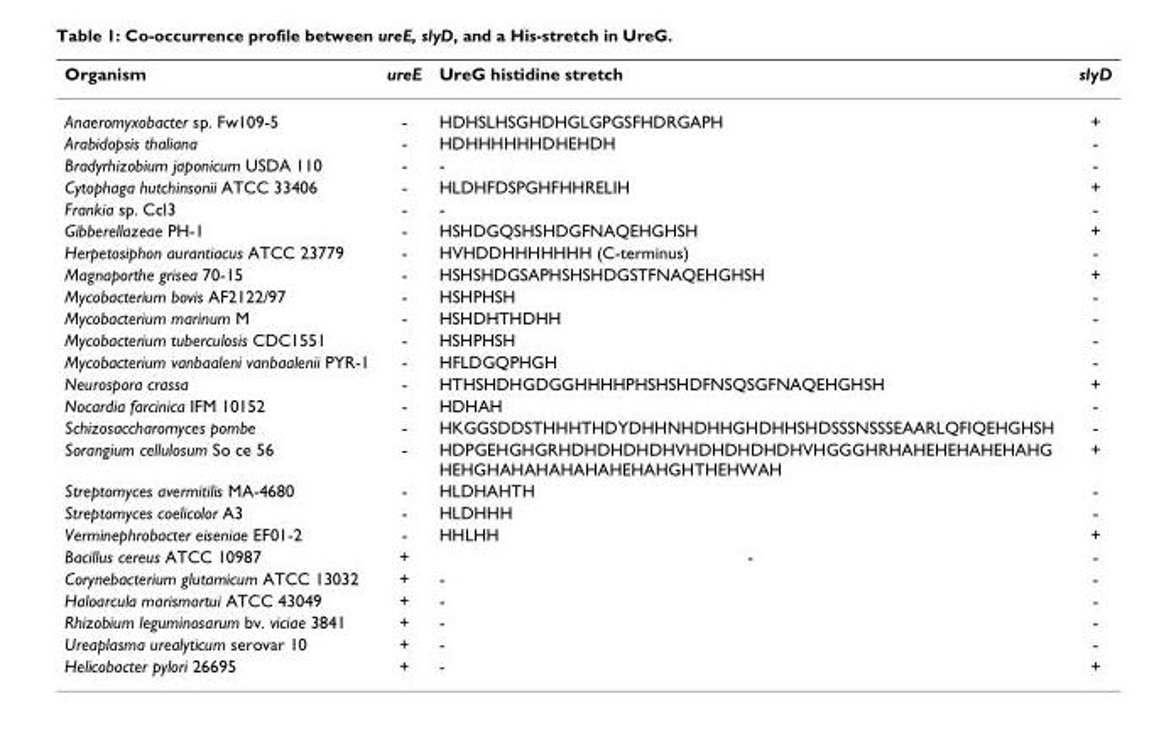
<table><thead><tr><td>Organism</td><td>ureE</td><td>UreG histidine stretch</td><td>slyD</td></tr></thead><tbody><tr><td>Anaeromyxobacter sp. Fw109-5</td><td>-</td><td>HDHSLHSGHDHGLGPGSFHDRGAPH</td><td>+</td></tr><tr><td>Arabidopsis thaliana</td><td>-</td><td>HDHHHHHHDHEHDH</td><td>-</td></tr><tr><td>Bradyrhizobium japonicum USDA 110</td><td>-</td><td>-</td><td>-</td></tr><tr><td>Cytophaga hutchinsonii ATCC 33406</td><td>-</td><td>HLDHFDSPGHFHHRELIH</td><td>+</td></tr><tr><td>Frankia sp. Ccl3</td><td>-</td><td>-</td><td>-</td></tr><tr><td>Gibberellazeae PH-1</td><td>-</td><td>HSHDGQSHSHDGFNAQEHGHSH</td><td>+</td></tr><tr><td>Herpetosiphon aurantiacus ATCC 23779</td><td>-</td><td>HVHDDHHHHHHH (C-terminus)</td><td>-</td></tr><tr><td>Magnaporthe grisea 70-15</td><td>-</td><td>HSHSHDGSAPHSHSHDGSTFNAQEHGHSH</td><td>+</td></tr><tr><td>Mycobacterium bovis AF2122/97</td><td>-</td><td>HSHPHSH</td><td>-</td></tr><tr><td>Mycobacterium marinum M</td><td>-</td><td>HSHDHTHDHH</td><td>-</td></tr><tr><td>Mycobacterium tuberculosis CDC1551</td><td>-</td><td>HSHPHSH</td><td>-</td></tr><tr><td>Mycobacterium vanbaaleni vanbaalenii PYR-1</td><td>-</td><td>HFLDGQPHGH</td><td>-</td></tr><tr><td>Neurospora crassa</td><td>-</td><td>HTHSHDHGDGGHHHHPHSHSHDFNSQSGFNAQEHGHSH</td><td>+</td></tr><tr><td>Nocardia farcinica IFM 10152</td><td>-</td><td>HDHAH</td><td>-</td></tr><tr><td>Schizosaccharomyces pombe</td><td>-</td><td>HKGGSDDSTHHHTHDYDHHNHDHHGHDHHSHDSSSNSSSEAARLQFIQEHGHSH</td><td>-</td></tr><tr><td>Sorangium cellulosum So ce 56</td><td>-</td><td>HDPGEHGHGRHDHDHDHDHVHDHDHDHDHVHGGGHRHAHEHEHAHEHAHG HEHGHAHAHAHAHAHEHAHGHTHEHWAH</td><td>+</td></tr><tr><td>Streptomyces avermitilis MA-4680</td><td>-</td><td>HLDHAHTH</td><td>-</td></tr><tr><td>Streptomyces coelicolor A3</td><td>-</td><td>HLDHHH</td><td>-</td></tr><tr><td>Verminephrobacter eiseniae EF01-2</td><td>-</td><td>HHLHH</td><td>+</td></tr><tr><td>Bacillus cereus ATCC 10987</td><td>+</td><td>-</td><td>-</td></tr><tr><td>Corynebacterium glutamicum ATCC 13032</td><td>+</td><td>-</td><td>-</td></tr><tr><td>Haloarcula marismortui ATCC 43049</td><td>+</td><td>-</td><td>-</td></tr><tr><td>Rhizobium leguminosarum bv. viciae 3841</td><td>+</td><td>-</td><td>-</td></tr><tr><td>Ureaplasma urealyticum serovar 10</td><td>+</td><td>-</td><td>-</td></tr><tr><td>Helicobacter pylori 26695</td><td>+</td><td>-</td><td>+</td></tr></tbody></table>